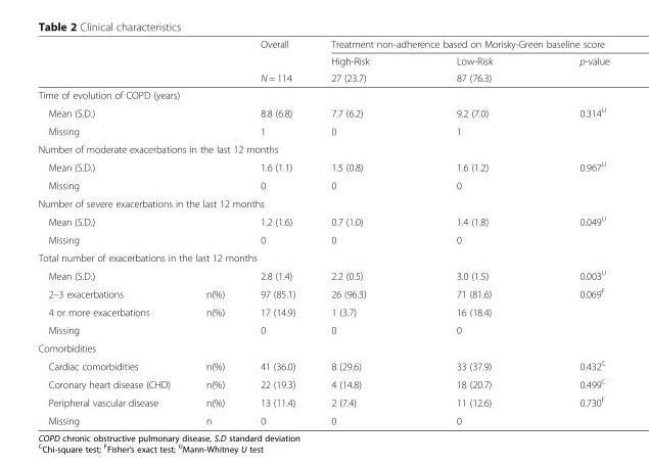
<table><thead><tr><td rowspan="3"></td><td rowspan="3"></td><td rowspan="3">Overall N = 114</td><td colspan="3">Treatment non-adherence based on Morisky-Green baseline score</td></tr><tr><td rowspan="2">High-Risk 27 (23.7)</td><td rowspan="2">Low-Risk 87 (76.3)</td><td rowspan="2">p-value</td></tr><tr></tr></thead><tbody><tr><td colspan="6">Time of evolution of COPD (years)</td></tr><tr><td>Mean (S.D.)</td><td></td><td>8.8 (6.8)</td><td>7.7 (6.2)</td><td>9.2 (7.0)</td><td>0.314<sup>U</sup></td></tr><tr><td>Missing</td><td></td><td>1</td><td>0</td><td>1</td><td></td></tr><tr><td colspan="6">Number of moderate exacerbations in the last 12 months</td></tr><tr><td>Mean (S.D.)</td><td></td><td>1.6 (1.1)</td><td>1.5 (0.8)</td><td>1.6 (1.2)</td><td>0.967<sup>U</sup></td></tr><tr><td>Missing</td><td></td><td>0</td><td>0</td><td>0</td><td></td></tr><tr><td colspan="6">Number of severe exacerbations in the last 12 months</td></tr><tr><td>Mean (S.D.)</td><td></td><td>1.2 (1.6)</td><td>0.7 (1.0)</td><td>1.4 (1.8)</td><td>0.049<sup>U</sup></td></tr><tr><td>Missing</td><td></td><td>0</td><td>0</td><td>0</td><td></td></tr><tr><td colspan="6">Total number of exacerbations in the last 12 months</td></tr><tr><td>Mean (S.D.)</td><td></td><td>2.8 (1.4)</td><td>2.2 (0.5)</td><td>3.0 (1.5)</td><td>0.003<sup>U</sup></td></tr><tr><td>2–3 exacerbations</td><td>n(%)</td><td>97 (85.1)</td><td>26 (96.3)</td><td>71 (81.6)</td><td>0.069<sup>F</sup></td></tr><tr><td>4 or more exacerbations</td><td>n(%)</td><td>17 (14.9)</td><td>1 (3.7)</td><td>16 (18.4)</td><td></td></tr><tr><td>Missing</td><td></td><td>0</td><td>0</td><td>0</td><td></td></tr><tr><td colspan="6">Comorbidities</td></tr><tr><td>Cardiac comorbidities</td><td>n(%)</td><td>41 (36.0)</td><td>8 (29.6)</td><td>33 (37.9)</td><td>0.432<sup>C</sup></td></tr><tr><td>Coronary heart disease (CHD)</td><td>n(%)</td><td>22 (19.3)</td><td>4 (14.8)</td><td>18 (20.7)</td><td>0.499<sup>C</sup></td></tr><tr><td>Peripheral vascular disease</td><td>n(%)</td><td>13 (11.4)</td><td>2 (7.4)</td><td>11 (12.6)</td><td>0.730<sup>F</sup></td></tr><tr><td>Missing</td><td>n</td><td>0</td><td>0</td><td>0</td><td></td></tr></tbody></table>